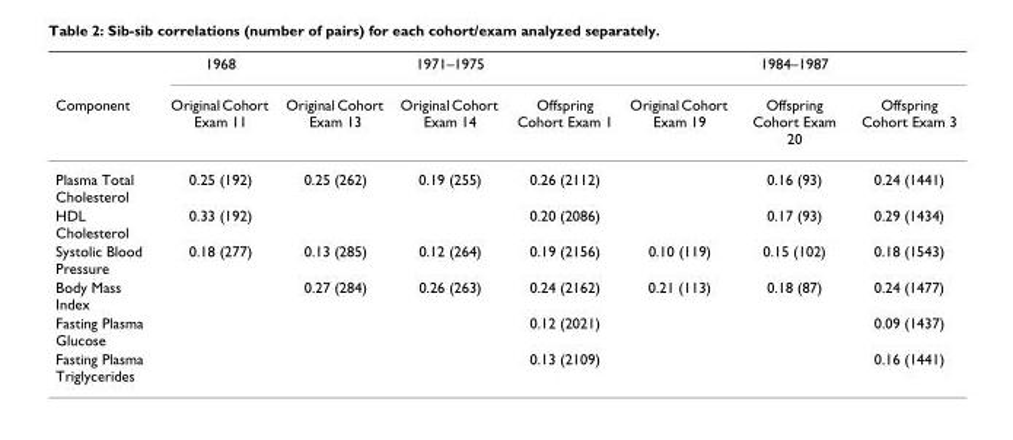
<table><thead><tr><td rowspan="2">Component</td><td rowspan="2">1968 Original Cohort Exam 11</td><td rowspan="2">Original Cohort Exam 13</td><td rowspan="2">1971–1975 Original Cohort Exam 14</td><td rowspan="2">Offspring Cohort Exam 1</td><td rowspan="2">Original Cohort Exam 19</td><td rowspan="2">1984–1987 Offspring Cohort Exam 20</td><td rowspan="2">Offspring Cohort Exam 3</td></tr><tr></tr></thead><tbody><tr><td>Plasma Total Cholesterol</td><td>0.25 (192)</td><td>0.25 (262)</td><td>0.19 (255)</td><td>0.26 (2112)</td><td></td><td>0.16 (93)</td><td>0.24 (1441)</td></tr><tr><td>HDL Cholesterol</td><td>0.33 (192)</td><td></td><td></td><td>0.20 (2086)</td><td></td><td>0.17 (93)</td><td>0.29 (1434)</td></tr><tr><td>Systolic Blood Pressure</td><td>0.18 (277)</td><td>0.13 (285)</td><td>0.12 (264)</td><td>0.19 (2156)</td><td>0.10 (119)</td><td>0.15 (102)</td><td>0.18 (1543)</td></tr><tr><td>Body Mass Index</td><td></td><td>0.27 (284)</td><td>0.26 (263)</td><td>0.24 (2162)</td><td>0.21 (113)</td><td>0.18 (87)</td><td>0.24 (1477)</td></tr><tr><td>Fasting Plasma Glucose</td><td></td><td></td><td></td><td>0.12 (2021)</td><td></td><td></td><td>0.09 (1437)</td></tr><tr><td>Fasting Plasma Triglycerides</td><td></td><td></td><td></td><td>0.13 (2109)</td><td></td><td></td><td>0.16 (1441)</td></tr></tbody></table>